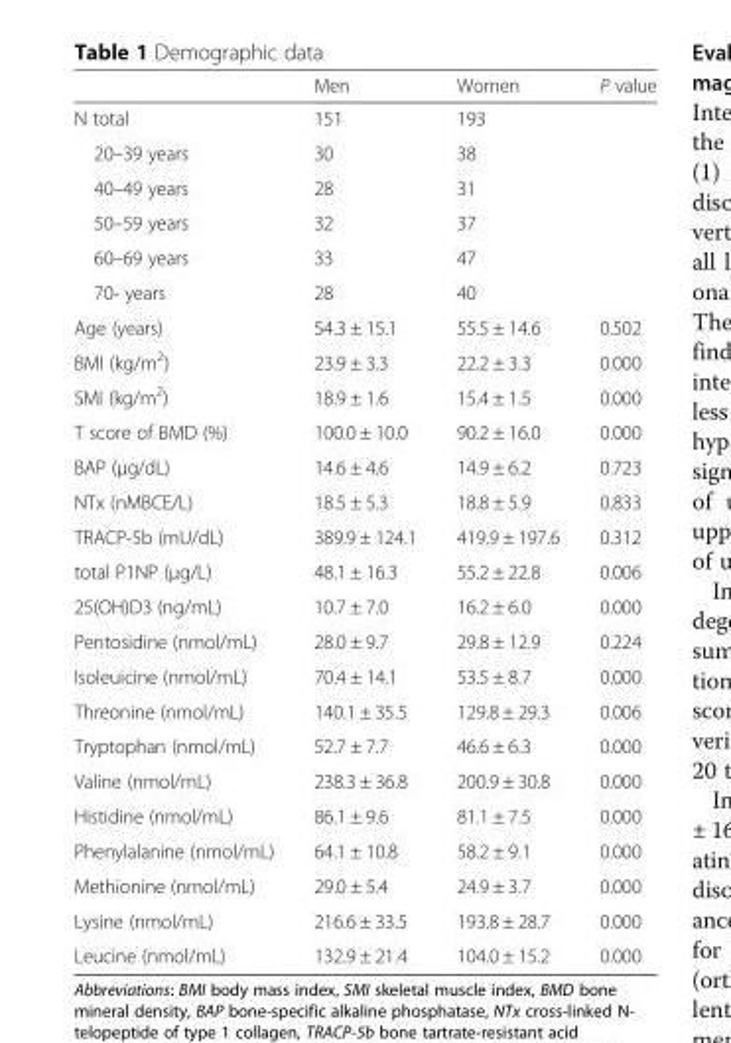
<table><thead><tr><td></td><td>Men</td><td>Women</td><td>P value</td></tr></thead><tbody><tr><td>N total</td><td>151</td><td>193</td><td></td></tr><tr><td>20–39 years</td><td>30</td><td>38</td><td></td></tr><tr><td>40–49 years</td><td>28</td><td>31</td><td></td></tr><tr><td>50–59 years</td><td>32</td><td>37</td><td></td></tr><tr><td>60–69 years</td><td>33</td><td>47</td><td></td></tr><tr><td>70- years</td><td>28</td><td>40</td><td></td></tr><tr><td>Age (years)</td><td>54.3 ± 15.1</td><td>55.5 ± 14.6</td><td>0.502</td></tr><tr><td>BMI (kg/m<sup>2</sup>)</td><td>23.9 ± 3.3</td><td>22.2 ± 3.3</td><td>0.000</td></tr><tr><td>SMI (kg/m<sup>2</sup>)</td><td>18.9 ± 1.6</td><td>15.4 ± 1.5</td><td>0.000</td></tr><tr><td>T score of BMD (%)</td><td>100.0 ± 10.0</td><td>90.2 ± 16.0</td><td>0.000</td></tr><tr><td>BAP (μg/dL)</td><td>14.6 ± 4.6</td><td>14.9 ± 6.2</td><td>0.723</td></tr><tr><td>NTx (nMBCE/L)</td><td>18.5 ± 5.3</td><td>18.8 ± 5.9</td><td>0.833</td></tr><tr><td>TRACP-5b (mU/dL)</td><td>389.9 ± 124.1</td><td>419.9 ± 197.6</td><td>0.312</td></tr><tr><td>total P1NP (μg/L)</td><td>48.1 ± 16.3</td><td>55.2 ± 22.8</td><td>0.006</td></tr><tr><td>25(OH)D3 (ng/mL)</td><td>10.7 ± 7.0</td><td>16.2 ± 6.0</td><td>0.000</td></tr><tr><td>Pentosidine (nmol/mL)</td><td>28.0 ± 9.7</td><td>29.8 ± 12.9</td><td>0.224</td></tr><tr><td>Isoleuicine (nmol/mL)</td><td>70.4 ± 14.1</td><td>53.5 ± 8.7</td><td>0.000</td></tr><tr><td>Threonine (nmol/mL)</td><td>140.1 ± 35.5</td><td>129.8 ± 29.3</td><td>0.006</td></tr><tr><td>Tryptophan (nmol/mL)</td><td>52.7 ± 7.7</td><td>46.6 ± 6.3</td><td>0.000</td></tr><tr><td>Valine (nmol/mL)</td><td>238.3 ± 36.8</td><td>200.9 ± 30.8</td><td>0.000</td></tr><tr><td>Histidine (nmol/mL)</td><td>86.1 ± 9.6</td><td>81.1 ± 7.5</td><td>0.000</td></tr><tr><td>Phenylalanine (nmol/mL)</td><td>64.1 ± 10.8</td><td>58.2 ± 9.1</td><td>0.000</td></tr><tr><td>Methionine (nmol/mL)</td><td>29.0 ± 5.4</td><td>24.9 ± 3.7</td><td>0.000</td></tr><tr><td>Lysine (nmol/mL)</td><td>216.6 ± 33.5</td><td>193.8 ± 28.7</td><td>0.000</td></tr><tr><td>Leucine (nmol/mL)</td><td>132.9 ± 21.4</td><td>104.0 ± 15.2</td><td>0.000</td></tr></tbody></table>